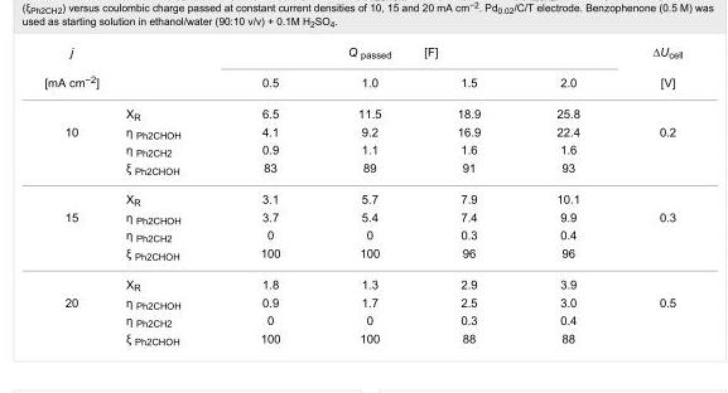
<table><tbody><tr><td>j</td><td></td><td></td><td>Q <sub>passed</sub></td><td>[F]</td><td></td><td>∆U<sub>cell</sub></td></tr><tr><td rowspan="2">[mA cm<sup>−2</sup>]</td><td></td><td>0.5</td><td>1.0</td><td>1.5</td><td>2.0</td><td>[V]</td></tr><tr><td>X<sub>R</sub></td><td>6.5</td><td>11.5</td><td>18.9</td><td>25.8</td><td></td></tr><tr><td rowspan="4">10</td><td>η <sub>Ph2CHOH</sub></td><td>4.1</td><td>9.2</td><td>16.9</td><td>22.4</td><td>0.2</td></tr><tr><td>η <sub>Ph2CH2</sub></td><td>0.9</td><td>1.1</td><td>1.6</td><td>1.6</td><td></td></tr><tr><td>ξ <sub>Ph2CHOH</sub></td><td>83</td><td>89</td><td>91</td><td>93</td><td></td></tr><tr><td>X<sub>R</sub></td><td>3.1</td><td>5.7</td><td>7.9</td><td>10.1</td><td></td></tr><tr><td rowspan="4">15</td><td>η <sub>Ph2CHOH</sub></td><td>3.7</td><td>5.4</td><td>7.4</td><td>9.9</td><td>0.3</td></tr><tr><td>η <sub>Ph2CH2</sub></td><td>0</td><td>0</td><td>0.3</td><td>0.4</td><td></td></tr><tr><td>ξ <sub>Ph2CHOH</sub></td><td>100</td><td>100</td><td>96</td><td>96</td><td></td></tr><tr><td>X<sub>R</sub></td><td>1.8</td><td>1.3</td><td>2.9</td><td>3.9</td><td></td></tr><tr><td rowspan="3">20</td><td>η <sub>Ph2CHOH</sub></td><td>0.9</td><td>1.7</td><td>2.5</td><td>3.0</td><td>0.5</td></tr><tr><td>η <sub>Ph2CH2</sub></td><td>0</td><td>0</td><td>0.3</td><td>0.4</td><td></td></tr><tr><td>ξ <sub>Ph2CHOH</sub></td><td>100</td><td>100</td><td>88</td><td>88</td><td></td></tr></tbody></table>